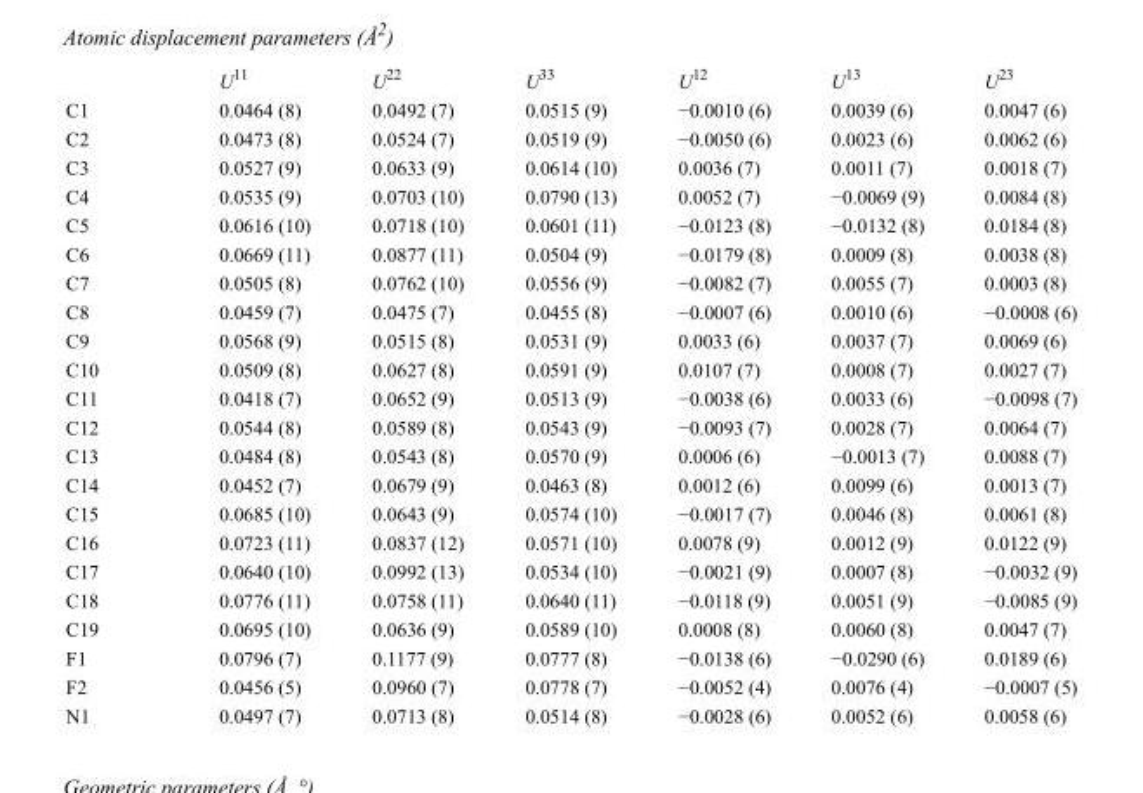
<table><thead><tr><td></td><td>U<sup>11</sup></td><td>U<sup>22</sup></td><td>U<sup>33</sup></td><td>U<sup>12</sup></td><td>U<sup>13</sup></td><td>U<sup>23</sup></td></tr></thead><tbody><tr><td>C1</td><td>0.0464 (8)</td><td>0.0492 (7)</td><td>0.0515 (9)</td><td>−0.0010 (6)</td><td>0.0039 (6)</td><td>0.0047 (6)</td></tr><tr><td>C2</td><td>0.0473 (8)</td><td>0.0524 (7)</td><td>0.0519 (9)</td><td>−0.0050 (6)</td><td>0.0023 (6)</td><td>0.0062 (6)</td></tr><tr><td>C3</td><td>0.0527 (9)</td><td>0.0633 (9)</td><td>0.0614 (10)</td><td>0.0036 (7)</td><td>0.0011 (7)</td><td>0.0018 (7)</td></tr><tr><td>C4</td><td>0.0535 (9)</td><td>0.0703 (10)</td><td>0.0790 (13)</td><td>0.0052 (7)</td><td>−0.0069 (9)</td><td>0.0084 (8)</td></tr><tr><td>C5</td><td>0.0616 (10)</td><td>0.0718 (10)</td><td>0.0601 (11)</td><td>−0.0123 (8)</td><td>−0.0132 (8)</td><td>0.0184 (8)</td></tr><tr><td>C6</td><td>0.0669 (11)</td><td>0.0877 (11)</td><td>0.0504 (9)</td><td>−0.0179 (8)</td><td>0.0009 (8)</td><td>0.0038 (8)</td></tr><tr><td>C7</td><td>0.0505 (8)</td><td>0.0762 (10)</td><td>0.0556 (9)</td><td>−0.0082 (7)</td><td>0.0055 (7)</td><td>0.0003 (8)</td></tr><tr><td>C8</td><td>0.0459 (7)</td><td>0.0475 (7)</td><td>0.0455 (8)</td><td>−0.0007 (6)</td><td>0.0010 (6)</td><td>−0.0008 (6)</td></tr><tr><td>C9</td><td>0.0568 (9)</td><td>0.0515 (8)</td><td>0.0531 (9)</td><td>0.0033 (6)</td><td>0.0037 (7)</td><td>0.0069 (6)</td></tr><tr><td>C10</td><td>0.0509 (8)</td><td>0.0627 (8)</td><td>0.0591 (9)</td><td>0.0107 (7)</td><td>0.0008 (7)</td><td>0.0027 (7)</td></tr><tr><td>C11</td><td>0.0418 (7)</td><td>0.0652 (9)</td><td>0.0513 (9)</td><td>−0.0038 (6)</td><td>0.0033 (6)</td><td>−0.0098 (7)</td></tr><tr><td>C12</td><td>0.0544 (8)</td><td>0.0589 (8)</td><td>0.0543 (9)</td><td>−0.0093 (7)</td><td>0.0028 (7)</td><td>0.0064 (7)</td></tr><tr><td>C13</td><td>0.0484 (8)</td><td>0.0543 (8)</td><td>0.0570 (9)</td><td>0.0006 (6)</td><td>−0.0013 (7)</td><td>0.0088 (7)</td></tr><tr><td>C14</td><td>0.0452 (7)</td><td>0.0679 (9)</td><td>0.0463 (8)</td><td>0.0012 (6)</td><td>0.0099 (6)</td><td>0.0013 (7)</td></tr><tr><td>C15</td><td>0.0685 (10)</td><td>0.0643 (9)</td><td>0.0574 (10)</td><td>−0.0017 (7)</td><td>0.0046 (8)</td><td>0.0061 (8)</td></tr><tr><td>C16</td><td>0.0723 (11)</td><td>0.0837 (12)</td><td>0.0571 (10)</td><td>0.0078 (9)</td><td>0.0012 (9)</td><td>0.0122 (9)</td></tr><tr><td>C17</td><td>0.0640 (10)</td><td>0.0992 (13)</td><td>0.0534 (10)</td><td>−0.0021 (9)</td><td>0.0007 (8)</td><td>−0.0032 (9)</td></tr><tr><td>C18</td><td>0.0776 (11)</td><td>0.0758 (11)</td><td>0.0640 (11)</td><td>−0.0118 (9)</td><td>0.0051 (9)</td><td>−0.0085 (9)</td></tr><tr><td>C19</td><td>0.0695 (10)</td><td>0.0636 (9)</td><td>0.0589 (10)</td><td>0.0008 (8)</td><td>0.0060 (8)</td><td>0.0047 (7)</td></tr><tr><td>F1</td><td>0.0796 (7)</td><td>0.1177 (9)</td><td>0.0777 (8)</td><td>−0.0138 (6)</td><td>−0.0290 (6)</td><td>0.0189 (6)</td></tr><tr><td>F2</td><td>0.0456 (5)</td><td>0.0960 (7)</td><td>0.0778 (7)</td><td>−0.0052 (4)</td><td>0.0076 (4)</td><td>−0.0007 (5)</td></tr><tr><td>N1</td><td>0.0497 (7)</td><td>0.0713 (8)</td><td>0.0514 (8)</td><td>−0.0028 (6)</td><td>0.0052 (6)</td><td>0.0058 (6)</td></tr></tbody></table>